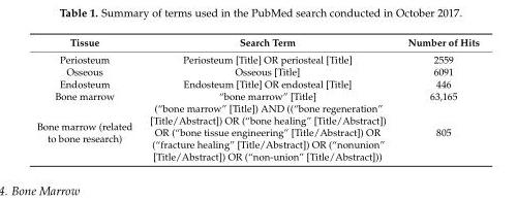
<table><thead><tr><td>Tissue</td><td>Search Term</td><td>Number of Hits</td></tr></thead><tbody><tr><td>Periosteum</td><td>Periosteum [Title] OR periosteal [Title]</td><td>2559</td></tr><tr><td>Osseous</td><td>Osseous [Title]</td><td>6091</td></tr><tr><td>Endosteum</td><td>Endosteum [Title] OR endosteal [Title]</td><td>446</td></tr><tr><td>Bone marrow</td><td>“bone marrow” [Title]</td><td>63,165</td></tr><tr><td>Bone marrow (related to bone research)</td><td>(“bone marrow” [Title]) AND ((“bone regeneration” [Title/Abstract]) OR (“bone healing” [Title/Abstract]) OR (“bone tissue engineering” [Title/Abstract]) OR (“fracture healing” [Title/Abstract]) OR (“nonunion” [Title/Abstract]) OR (“non-union” [Title/Abstract]))</td><td>805</td></tr></tbody></table>